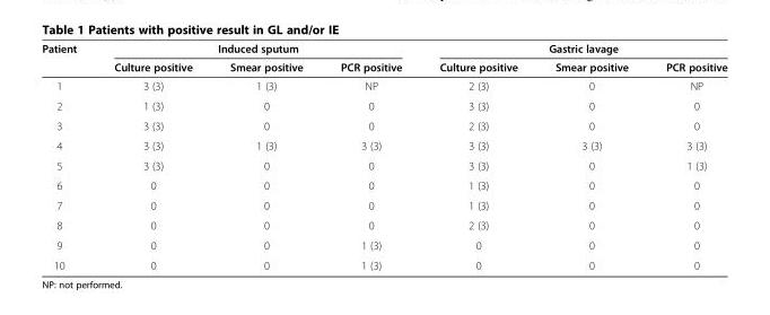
<table><thead><tr><td rowspan="2">Patient</td><td colspan="3">Induced sputum</td><td colspan="3">Gastric lavage</td></tr><tr><td>Culture positive</td><td>Smear positive</td><td>PCR positive</td><td>Culture positive</td><td>Smear positive</td><td>PCR positive</td></tr></thead><tbody><tr><td>1</td><td>3 (3)</td><td>1 (3)</td><td>NP</td><td>2 (3)</td><td>0</td><td>NP</td></tr><tr><td>2</td><td>1 (3)</td><td>0</td><td>0</td><td>3 (3)</td><td>0</td><td>0</td></tr><tr><td>3</td><td>3 (3)</td><td>0</td><td>0</td><td>2 (3)</td><td>0</td><td>0</td></tr><tr><td>4</td><td>3 (3)</td><td>1 (3)</td><td>3 (3)</td><td>3 (3)</td><td>3 (3)</td><td>3 (3)</td></tr><tr><td>5</td><td>3 (3)</td><td>0</td><td>0</td><td>3 (3)</td><td>0</td><td>1 (3)</td></tr><tr><td>6</td><td>0</td><td>0</td><td>0</td><td>1 (3)</td><td>0</td><td>0</td></tr><tr><td>7</td><td>0</td><td>0</td><td>0</td><td>1 (3)</td><td>0</td><td>0</td></tr><tr><td>8</td><td>0</td><td>0</td><td>0</td><td>2 (3)</td><td>0</td><td>0</td></tr><tr><td>9</td><td>0</td><td>0</td><td>1 (3)</td><td>0</td><td>0</td><td>0</td></tr><tr><td>10</td><td>0</td><td>0</td><td>1 (3)</td><td>0</td><td>0</td><td>0</td></tr></tbody></table>